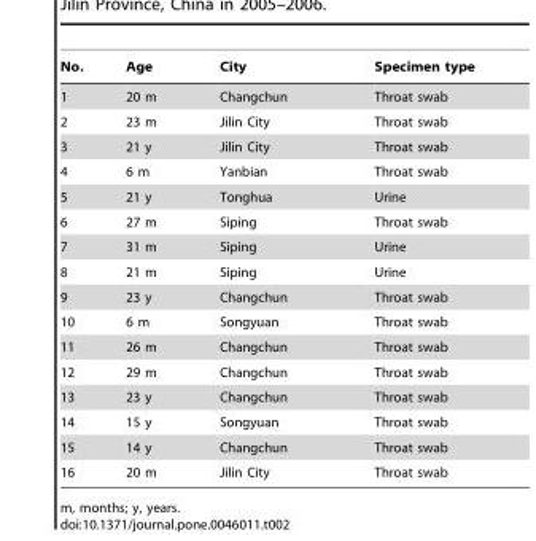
<table><thead><tr><td>No.</td><td>Age</td><td>City</td><td>Specimen type</td></tr></thead><tbody><tr><td>1</td><td>20 m</td><td>Changchun</td><td>Throat swab</td></tr><tr><td>2</td><td>23 m</td><td>Jilin City</td><td>Throat swab</td></tr><tr><td>3</td><td>21 y</td><td>Jilin City</td><td>Throat swab</td></tr><tr><td>4</td><td>6 m</td><td>Yanbian</td><td>Throat swab</td></tr><tr><td>5</td><td>21 y</td><td>Tonghua</td><td>Urine</td></tr><tr><td>6</td><td>27 m</td><td>Siping</td><td>Throat swab</td></tr><tr><td>7</td><td>31 m</td><td>Siping</td><td>Urine</td></tr><tr><td>8</td><td>21 m</td><td>Siping</td><td>Urine</td></tr><tr><td>9</td><td>23 y</td><td>Changchun</td><td>Throat swab</td></tr><tr><td>10</td><td>6 m</td><td>Songyuan</td><td>Throat swab</td></tr><tr><td>11</td><td>26 m</td><td>Changchun</td><td>Throat swab</td></tr><tr><td>12</td><td>29 m</td><td>Changchun</td><td>Throat swab</td></tr><tr><td>13</td><td>23 y</td><td>Changchun</td><td>Throat swab</td></tr><tr><td>14</td><td>15 y</td><td>Songyuan</td><td>Throat swab</td></tr><tr><td>15</td><td>14 y</td><td>Changchun</td><td>Throat swab</td></tr><tr><td>16</td><td>20 m</td><td>Jilin City</td><td>Throat swab</td></tr></tbody></table>